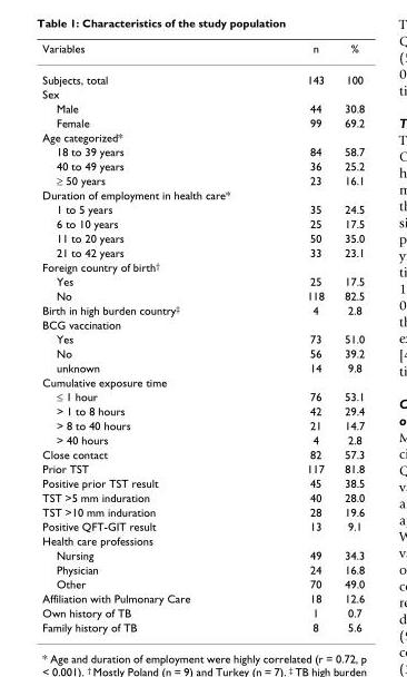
<table><thead><tr><td>Variables</td><td>n</td><td>%</td></tr></thead><tbody><tr><td>Subjects, total</td><td>143</td><td>100</td></tr><tr><td colspan="3">Sex</td></tr><tr><td>Male</td><td>44</td><td>30.8</td></tr><tr><td>Female</td><td>99</td><td>69.2</td></tr><tr><td colspan="3">Age categorized*</td></tr><tr><td>18 to 39 years</td><td>84</td><td>58.7</td></tr><tr><td>40 to 49 years</td><td>36</td><td>25.2</td></tr><tr><td>≥ 50 years</td><td>23</td><td>16.1</td></tr><tr><td colspan="3">Duration of employment in health care*</td></tr><tr><td>1 to 5 years</td><td>35</td><td>24.5</td></tr><tr><td>6 to 10 years</td><td>25</td><td>17.5</td></tr><tr><td>11 to 20 years</td><td>50</td><td>35.0</td></tr><tr><td>21 to 42 years</td><td>33</td><td>23.1</td></tr><tr><td colspan="3">Foreign country of birth<sup>†</sup></td></tr><tr><td>Yes</td><td>25</td><td>17.5</td></tr><tr><td>No</td><td>118</td><td>82.5</td></tr><tr><td>Birth in high burden country<sup>‡</sup></td><td>4</td><td>2.8</td></tr><tr><td colspan="3">BCG vaccination</td></tr><tr><td>Yes</td><td>73</td><td>51.0</td></tr><tr><td>No</td><td>56</td><td>39.2</td></tr><tr><td>unknown</td><td>14</td><td>9.8</td></tr><tr><td colspan="3">Cumulative exposure time</td></tr><tr><td>≤ 1 hour</td><td>76</td><td>53.1</td></tr><tr><td>&gt; 1 to 8 hours</td><td>42</td><td>29.4</td></tr><tr><td>&gt; 8 to 40 hours</td><td>21</td><td>14.7</td></tr><tr><td>&gt; 40 hours</td><td>4</td><td>2.8</td></tr><tr><td>Close contact</td><td>82</td><td>57.3</td></tr><tr><td>Prior TST</td><td>117</td><td>81.8</td></tr><tr><td>Positive prior TST result</td><td>45</td><td>38.5</td></tr><tr><td>TST &gt;5 mm induration</td><td>40</td><td>28.0</td></tr><tr><td>TST &gt;10 mm induration</td><td>28</td><td>19.6</td></tr><tr><td>Positive QFT-GIT result</td><td>13</td><td>9.1</td></tr><tr><td colspan="3">Health care professions</td></tr><tr><td>Nursing</td><td>49</td><td>34.3</td></tr><tr><td>Physician</td><td>24</td><td>16.8</td></tr><tr><td>Other</td><td>70</td><td>49.0</td></tr><tr><td>Affiliation with Pulmonary Care</td><td>18</td><td>12.6</td></tr><tr><td>Own history of TB</td><td>1</td><td>0.7</td></tr><tr><td>Family history of TB</td><td>8</td><td>5.6</td></tr></tbody></table>